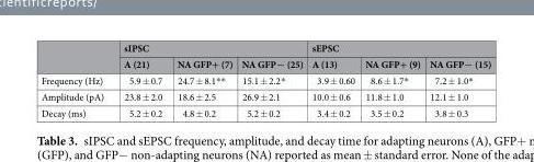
<table><thead><tr><td rowspan="2"></td><td colspan="3">sIPSC</td><td colspan="3">sEPSC</td></tr><tr><td>A (21)</td><td>NA GFP+ (7)</td><td>NA GFP− (25)</td><td>A (13)</td><td>NA GFP+ (9)</td><td>NA GFP− (15)</td></tr></thead><tbody><tr><td>Frequency (Hz)</td><td>5.9 ± 0.7</td><td>24.7 ± 8.1**</td><td>15.1 ± 2.2*</td><td>3.9 ± 0.60</td><td>8.6 ± 1.7*</td><td>7.2 ± 1.0*</td></tr><tr><td>Amplitude (pA)</td><td>23.8 ± 2.0</td><td>18.6 ± 2.5</td><td>26.9 ± 2.1</td><td>10.0 ± 0.6</td><td>11.8 ± 1.0</td><td>12.1 ± 1.0</td></tr><tr><td>Decay (ms)</td><td>5.2 ± 0.2</td><td>4.8 ± 0.2</td><td>5.2 ± 0.2</td><td>3.4 ± 0.2</td><td>3.5 ± 0.2</td><td>3.8 ± 0.3</td></tr></tbody></table>